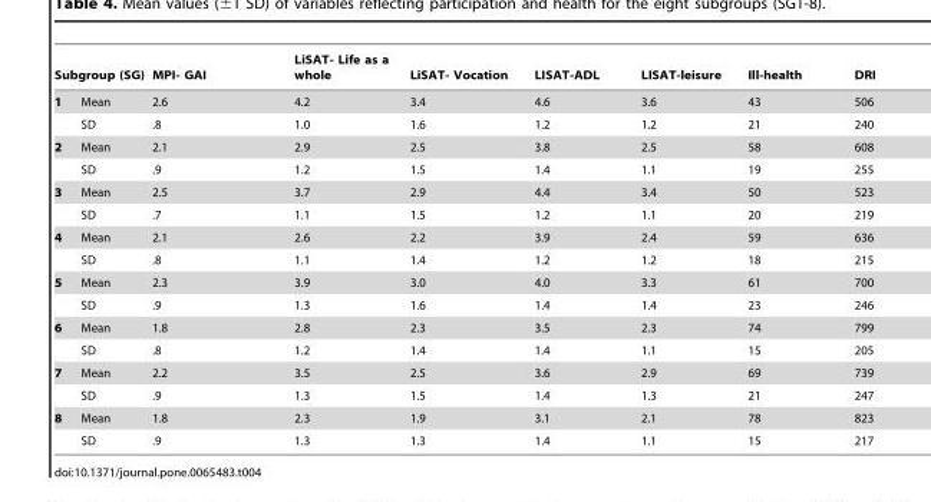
<table><thead><tr><td colspan="2">Subgroup (SG)</td><td rowspan="2">MPI- GAI 2.6</td><td rowspan="2">LiSAT- Life as a whole 4.2</td><td rowspan="2">LiSAT- Vocation 3.4</td><td rowspan="2">LISAT-ADL 4.6</td><td rowspan="2">LISAT-leisure 3.6</td><td rowspan="2">Ill-health 43</td><td rowspan="2">DRI 506</td></tr><tr><td>1</td><td>Mean</td></tr></thead><tbody><tr><td></td><td>SD</td><td>.8</td><td>1.0</td><td>1.6</td><td>1.2</td><td>1.2</td><td>21</td><td>240</td></tr><tr><td rowspan="2">2</td><td>Mean</td><td>2.1</td><td>2.9</td><td>2.5</td><td>3.8</td><td>2.5</td><td>58</td><td>608</td></tr><tr><td>SD</td><td>.9</td><td>1.2</td><td>1.5</td><td>1.4</td><td>1.1</td><td>19</td><td>255</td></tr><tr><td rowspan="2">3</td><td>Mean</td><td>2.5</td><td>3.7</td><td>2.9</td><td>4.4</td><td>3.4</td><td>50</td><td>523</td></tr><tr><td>SD</td><td>.7</td><td>1.1</td><td>1.5</td><td>1.2</td><td>1.1</td><td>20</td><td>219</td></tr><tr><td rowspan="2">4</td><td>Mean</td><td>2.1</td><td>2.6</td><td>2.2</td><td>3.9</td><td>2.4</td><td>59</td><td>636</td></tr><tr><td>SD</td><td>.8</td><td>1.1</td><td>1.4</td><td>1.2</td><td>1.2</td><td>18</td><td>215</td></tr><tr><td rowspan="2">5</td><td>Mean</td><td>2.3</td><td>3.9</td><td>3.0</td><td>4.0</td><td>3.3</td><td>61</td><td>700</td></tr><tr><td>SD</td><td>.9</td><td>1.3</td><td>1.6</td><td>1.4</td><td>1.4</td><td>23</td><td>246</td></tr><tr><td rowspan="2">6</td><td>Mean</td><td>1.8</td><td>2.8</td><td>2.3</td><td>3.5</td><td>2.3</td><td>74</td><td>799</td></tr><tr><td>SD</td><td>.8</td><td>1.2</td><td>1.4</td><td>1.4</td><td>1.1</td><td>15</td><td>205</td></tr><tr><td rowspan="2">7</td><td>Mean</td><td>2.2</td><td>3.5</td><td>2.5</td><td>3.6</td><td>2.9</td><td>69</td><td>739</td></tr><tr><td>SD</td><td>.9</td><td>1.3</td><td>1.5</td><td>1.4</td><td>1.3</td><td>21</td><td>247</td></tr><tr><td rowspan="2">8</td><td>Mean</td><td>1.8</td><td>2.3</td><td>1.9</td><td>3.1</td><td>2.1</td><td>78</td><td>823</td></tr><tr><td>SD</td><td>.9</td><td>1.3</td><td>1.3</td><td>1.4</td><td>1.1</td><td>15</td><td>217</td></tr></tbody></table>